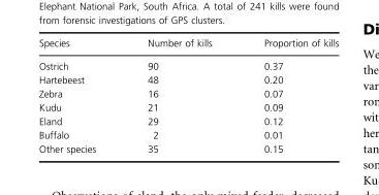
<table><thead><tr><td>Species</td><td>Number of kills</td><td>Proportion of kills</td></tr></thead><tbody><tr><td>Ostrich</td><td>90</td><td>0.37</td></tr><tr><td>Hartebeest</td><td>48</td><td>0.20</td></tr><tr><td>Zebra</td><td>16</td><td>0.07</td></tr><tr><td>Kudu</td><td>21</td><td>0.09</td></tr><tr><td>Eland</td><td>29</td><td>0.12</td></tr><tr><td>Buffalo</td><td>2</td><td>0.01</td></tr><tr><td>Other species</td><td>35</td><td>0.15</td></tr></tbody></table>